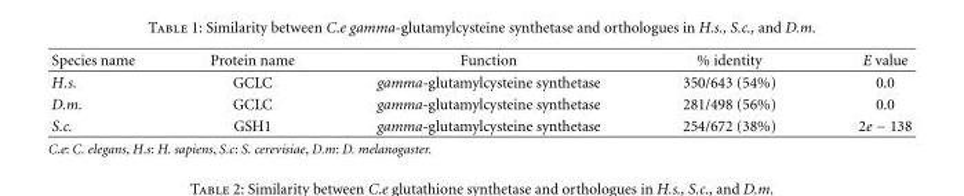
<table><thead><tr><td>Species name</td><td>Protein name</td><td>Function</td><td>% identity</td><td>E value</td></tr></thead><tbody><tr><td>H.s.</td><td>GCLC</td><td>gamma-glutamylcysteine synthetase</td><td>350/643 (54%)</td><td>0.0</td></tr><tr><td>D.m.</td><td>GCLC</td><td>gamma-glutamylcysteine synthetase</td><td>281/498 (56%)</td><td>0.0</td></tr><tr><td>S.c.</td><td>GSH1</td><td>gamma-glutamylcysteine synthetase</td><td>254/672 (38%)</td><td>2e − 138</td></tr></tbody></table>